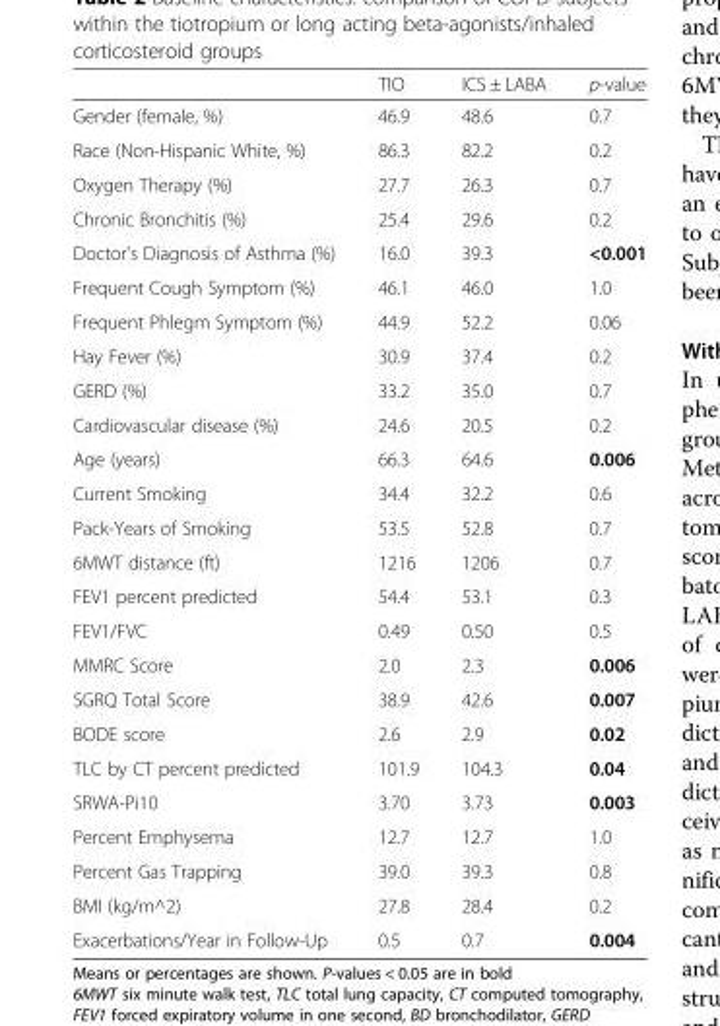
<table><thead><tr><td></td><td>TIO</td><td>ICS ± LABA</td><td>p-value</td></tr></thead><tbody><tr><td>Gender (female, %)</td><td>46.9</td><td>48.6</td><td>0.7</td></tr><tr><td>Race (Non-Hispanic White, %)</td><td>86.3</td><td>82.2</td><td>0.2</td></tr><tr><td>Oxygen Therapy (%)</td><td>27.7</td><td>26.3</td><td>0.7</td></tr><tr><td>Chronic Bronchitis (%)</td><td>25.4</td><td>29.6</td><td>0.2</td></tr><tr><td>Doctor&#x27;s Diagnosis of Asthma (%)</td><td>16.0</td><td>39.3</td><td>&lt;0.001</td></tr><tr><td>Frequent Cough Symptom (%)</td><td>46.1</td><td>46.0</td><td>1.0</td></tr><tr><td>Frequent Phlegm Symptom (%)</td><td>44.9</td><td>52.2</td><td>0.06</td></tr><tr><td>Hay Fever (%)</td><td>30.9</td><td>37.4</td><td>0.2</td></tr><tr><td>GERD (%)</td><td>33.2</td><td>35.0</td><td>0.7</td></tr><tr><td>Cardiovascular disease (%)</td><td>24.6</td><td>20.5</td><td>0.2</td></tr><tr><td>Age (years)</td><td>66.3</td><td>64.6</td><td>0.006</td></tr><tr><td>Current Smoking</td><td>34.4</td><td>32.2</td><td>0.6</td></tr><tr><td>Pack-Years of Smoking</td><td>53.5</td><td>52.8</td><td>0.7</td></tr><tr><td>6MWT distance (ft)</td><td>1216</td><td>1206</td><td>0.7</td></tr><tr><td>FEV1 percent predicted</td><td>54.4</td><td>53.1</td><td>0.3</td></tr><tr><td>FEV1/FVC</td><td>0.49</td><td>0.50</td><td>0.5</td></tr><tr><td>MMRC Score</td><td>2.0</td><td>2.3</td><td>0.006</td></tr><tr><td>SGRQ Total Score</td><td>38.9</td><td>42.6</td><td>0.007</td></tr><tr><td>BODE score</td><td>2.6</td><td>2.9</td><td>0.02</td></tr><tr><td>TLC by CT percent predicted</td><td>101.9</td><td>104.3</td><td>0.04</td></tr><tr><td>SRWA-Pi10</td><td>3.70</td><td>3.73</td><td>0.003</td></tr><tr><td>Percent Emphysema</td><td>12.7</td><td>12.7</td><td>1.0</td></tr><tr><td>Percent Gas Trapping</td><td>39.0</td><td>39.3</td><td>0.8</td></tr><tr><td>BMI (kg/m^2)</td><td>27.8</td><td>28.4</td><td>0.2</td></tr><tr><td>Exacerbations/Year in Follow-Up</td><td>0.5</td><td>0.7</td><td>0.004</td></tr></tbody></table>